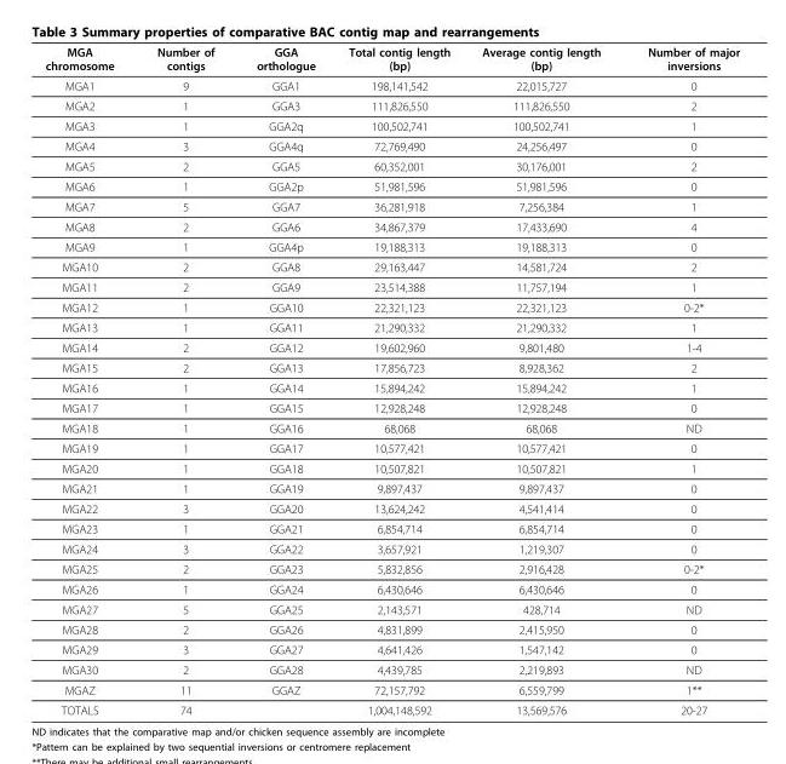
<table><thead><tr><td>MGA chromosome</td><td>Number of contigs</td><td>GGA orthologue</td><td>Total contig length (bp)</td><td>Average contig length (bp)</td><td>Number of major inversions</td></tr></thead><tbody><tr><td>MGA1</td><td>9</td><td>GGA1</td><td>198,141,542</td><td>22,015,727</td><td>0</td></tr><tr><td>MGA2</td><td>1</td><td>GGA3</td><td>111,826,550</td><td>111,826,550</td><td>2</td></tr><tr><td>MGA3</td><td>1</td><td>GGA2q</td><td>100,502,741</td><td>100,502,741</td><td>1</td></tr><tr><td>MGA4</td><td>3</td><td>GGA4q</td><td>72,769,490</td><td>24,256,497</td><td>0</td></tr><tr><td>MGA5</td><td>2</td><td>GGA5</td><td>60,352,001</td><td>30,176,001</td><td>2</td></tr><tr><td>MGA6</td><td>1</td><td>GGA2p</td><td>51,981,596</td><td>51,981,596</td><td>0</td></tr><tr><td>MGA7</td><td>5</td><td>GGA7</td><td>36,281,918</td><td>7,256,384</td><td>1</td></tr><tr><td>MGA8</td><td>2</td><td>GGA6</td><td>34,867,379</td><td>17,433,690</td><td>4</td></tr><tr><td>MGA9</td><td>1</td><td>GGA4p</td><td>19,188,313</td><td>19,188,313</td><td>0</td></tr><tr><td>MGA10</td><td>2</td><td>GGA8</td><td>29,163,447</td><td>14,581,724</td><td>2</td></tr><tr><td>MGA11</td><td>2</td><td>GGA9</td><td>23,514,388</td><td>11,757,194</td><td>1</td></tr><tr><td>MGA12</td><td>1</td><td>GGA10</td><td>22,321,123</td><td>22,321,123</td><td>0-2*</td></tr><tr><td>MGA13</td><td>1</td><td>GGA11</td><td>21,290,332</td><td>21,290,332</td><td>1</td></tr><tr><td>MGA14</td><td>2</td><td>GGA12</td><td>19,602,960</td><td>9,801,480</td><td>1-4</td></tr><tr><td>MGA15</td><td>2</td><td>GGA13</td><td>17,856,723</td><td>8,928,362</td><td>2</td></tr><tr><td>MGA16</td><td>1</td><td>GGA14</td><td>15,894,242</td><td>15,894,242</td><td>1</td></tr><tr><td>MGA17</td><td>1</td><td>GGA15</td><td>12,928,248</td><td>12,928,248</td><td>0</td></tr><tr><td>MGA18</td><td>1</td><td>GGA16</td><td>68,068</td><td>68,068</td><td>ND</td></tr><tr><td>MGA19</td><td>1</td><td>GGA17</td><td>10,577,421</td><td>10,577,421</td><td>0</td></tr><tr><td>MGA20</td><td>1</td><td>GGA18</td><td>10,507,821</td><td>10,507,821</td><td>1</td></tr><tr><td>MGA21</td><td>1</td><td>GGA19</td><td>9,897,437</td><td>9,897,437</td><td>0</td></tr><tr><td>MGA22</td><td>3</td><td>GGA20</td><td>13,624,242</td><td>4,541,414</td><td>0</td></tr><tr><td>MGA23</td><td>1</td><td>GGA21</td><td>6,854,714</td><td>6,854,714</td><td>0</td></tr><tr><td>MGA24</td><td>3</td><td>GGA22</td><td>3,657,921</td><td>1,219,307</td><td>0</td></tr><tr><td>MGA25</td><td>2</td><td>GGA23</td><td>5,832,856</td><td>2,916,428</td><td>0-2*</td></tr><tr><td>MGA26</td><td>1</td><td>GGA24</td><td>6,430,646</td><td>6,430,646</td><td>0</td></tr><tr><td>MGA27</td><td>5</td><td>GGA25</td><td>2,143,571</td><td>428,714</td><td>ND</td></tr><tr><td>MGA28</td><td>2</td><td>GGA26</td><td>4,831,899</td><td>2,415,950</td><td>0</td></tr><tr><td>MGA29</td><td>3</td><td>GGA27</td><td>4,641,426</td><td>1,547,142</td><td>0</td></tr><tr><td>MGA30</td><td>2</td><td>GGA28</td><td>4,439,785</td><td>2,219,893</td><td>ND</td></tr><tr><td>MGAZ</td><td>11</td><td>GGAZ</td><td>72,157,792</td><td>6,559,799</td><td>1**</td></tr><tr><td>TOTALS</td><td>74</td><td></td><td>1,004,148,592</td><td>13,569,576</td><td>20-27</td></tr></tbody></table>